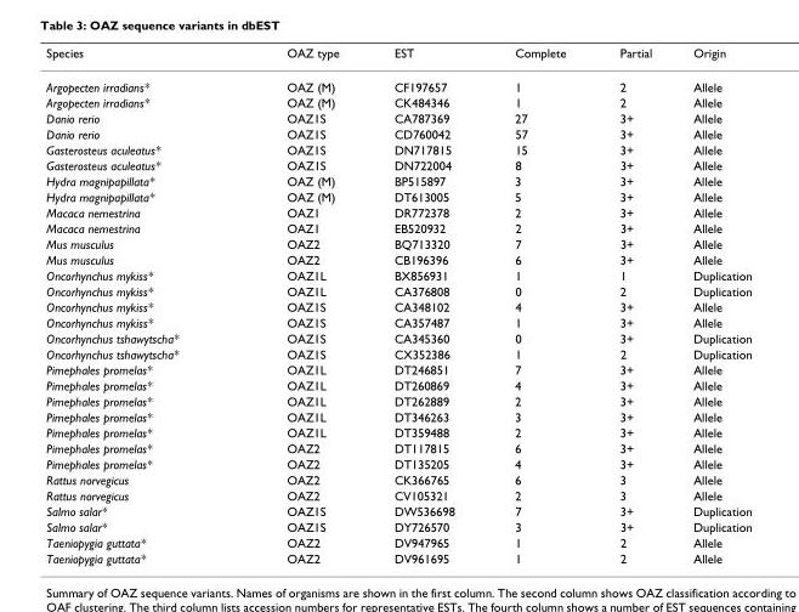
<table><thead><tr><td>Species</td><td>OAZ type</td><td>EST</td><td>Complete</td><td>Partial</td><td>Origin</td></tr></thead><tbody><tr><td>Argopecten irradians*</td><td>OAZ (M)</td><td>CF197657</td><td>1</td><td>2</td><td>Allele</td></tr><tr><td>Argopecten irradians*</td><td>OAZ (M)</td><td>CK484346</td><td>1</td><td>2</td><td>Allele</td></tr><tr><td>Danio rerio</td><td>OAZ1S</td><td>CA787369</td><td>27</td><td>3+</td><td>Allele</td></tr><tr><td>Danio rerio</td><td>OAZ1S</td><td>CD760042</td><td>57</td><td>3+</td><td>Allele</td></tr><tr><td>Gasterosteus aculeatus*</td><td>OAZ1S</td><td>DN717815</td><td>15</td><td>3+</td><td>Allele</td></tr><tr><td>Gasterosteus aculeatus*</td><td>OAZ1S</td><td>DN722004</td><td>8</td><td>3+</td><td>Allele</td></tr><tr><td>Hydra magnipapillata*</td><td>OAZ (M)</td><td>BP515897</td><td>3</td><td>3+</td><td>Allele</td></tr><tr><td>Hydra magnipapillata*</td><td>OAZ (M)</td><td>DT613005</td><td>5</td><td>3+</td><td>Allele</td></tr><tr><td>Macaca nemestrina</td><td>OAZ1</td><td>DR772378</td><td>2</td><td>3+</td><td>Allele</td></tr><tr><td>Macaca nemestrina</td><td>OAZ1</td><td>EB520932</td><td>2</td><td>3+</td><td>Allele</td></tr><tr><td>Mus musculus</td><td>OAZ2</td><td>BQ713320</td><td>7</td><td>3+</td><td>Allele</td></tr><tr><td>Mus musculus</td><td>OAZ2</td><td>CB196396</td><td>6</td><td>3+</td><td>Allele</td></tr><tr><td>Oncorhynchus mykiss*</td><td>OAZ1L</td><td>BX856931</td><td>1</td><td>1</td><td>Duplication</td></tr><tr><td>Oncorhynchus mykiss*</td><td>OAZ1L</td><td>CA376808</td><td>0</td><td>2</td><td>Duplication</td></tr><tr><td>Oncorhynchus mykiss*</td><td>OAZ1S</td><td>CA348102</td><td>4</td><td>3+</td><td>Allele</td></tr><tr><td>Oncorhynchus mykiss*</td><td>OAZ1S</td><td>CA357487</td><td>1</td><td>3+</td><td>Allele</td></tr><tr><td>Oncorhynchus tshawytscha*</td><td>OAZ1S</td><td>CA345360</td><td>0</td><td>3+</td><td>Duplication</td></tr><tr><td>Oncorhynchus tshawytscha*</td><td>OAZ1S</td><td>CX352386</td><td>1</td><td>2</td><td>Duplication</td></tr><tr><td>Pimephales promelas*</td><td>OAZ1L</td><td>DT246851</td><td>7</td><td>3+</td><td>Allele</td></tr><tr><td>Pimephales promelas*</td><td>OAZ1L</td><td>DT260869</td><td>4</td><td>3+</td><td>Allele</td></tr><tr><td>Pimephales promelas*</td><td>OAZ1L</td><td>DT262889</td><td>2</td><td>3+</td><td>Allele</td></tr><tr><td>Pimephales promelas*</td><td>OAZ1L</td><td>DT346263</td><td>3</td><td>3+</td><td>Allele</td></tr><tr><td>Pimephales promelas*</td><td>OAZ1L</td><td>DT359488</td><td>2</td><td>3+</td><td>Allele</td></tr><tr><td>Pimephales promelas*</td><td>OAZ2</td><td>DT117815</td><td>6</td><td>3+</td><td>Allele</td></tr><tr><td>Pimephales promelas*</td><td>OAZ2</td><td>DT135205</td><td>4</td><td>3+</td><td>Allele</td></tr><tr><td>Rattus norvegicus</td><td>OAZ2</td><td>CK366765</td><td>6</td><td>3</td><td>Allele</td></tr><tr><td>Rattus norvegicus</td><td>OAZ2</td><td>CV105321</td><td>2</td><td>3</td><td>Allele</td></tr><tr><td>Salmo salar*</td><td>OAZ1S</td><td>DW536698</td><td>7</td><td>3+</td><td>Duplication</td></tr><tr><td>Salmo salar*</td><td>OAZ1S</td><td>DY726570</td><td>3</td><td>3+</td><td>Duplication</td></tr><tr><td>Taeniopygia guttata*</td><td>OAZ2</td><td>DV947965</td><td>1</td><td>2</td><td>Allele</td></tr><tr><td>Taeniopygia guttata*</td><td>OAZ2</td><td>DV961695</td><td>1</td><td>2</td><td>Allele</td></tr></tbody></table>